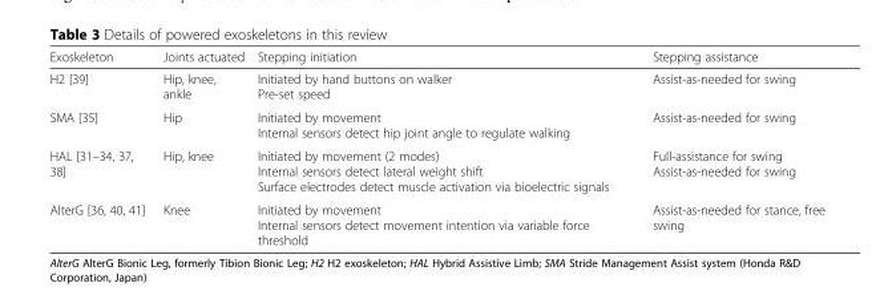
<table><thead><tr><td>Exoskeleton</td><td>Joints actuated</td><td>Stepping initiation</td><td>Stepping assistance</td></tr></thead><tbody><tr><td>H2 [39]</td><td>Hip, knee, ankle</td><td>Initiated by hand buttons on walker Pre-set speed</td><td>Assist-as-needed for swing</td></tr><tr><td>SMA [35]</td><td>Hip</td><td>Initiated by movement Internal sensors detect hip joint angle to regulate walking</td><td>Assist-as-needed for swing</td></tr><tr><td>HAL [31–34, 37, 38]</td><td>Hip, knee</td><td>Initiated by movement (2 modes) Internal sensors detect lateral weight shift Surface electrodes detect muscle activation via bioelectric signals</td><td>Full-assistance for swing Assist-as-needed for swing</td></tr><tr><td>AlterG [36, 40, 41]</td><td>Knee</td><td>Initiated by movement Internal sensors detect movement intention via variable force threshold</td><td>Assist-as-needed for stance, free swing</td></tr></tbody></table>